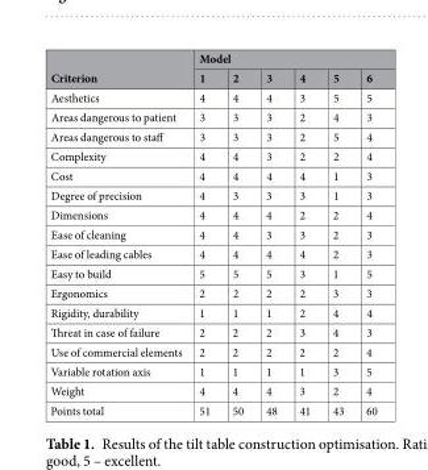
<table><thead><tr><td rowspan="2">Criterion</td><td colspan="6">Model</td></tr><tr><td>1</td><td>2</td><td>3</td><td>4</td><td>5</td><td>6</td></tr></thead><tbody><tr><td>Aesthetics</td><td>4</td><td>4</td><td>4</td><td>3</td><td>5</td><td>5</td></tr><tr><td>Areas dangerous to patient</td><td>3</td><td>3</td><td>3</td><td>2</td><td>4</td><td>3</td></tr><tr><td>Areas dangerous to staff</td><td>3</td><td>3</td><td>3</td><td>2</td><td>5</td><td>4</td></tr><tr><td>Complexity</td><td>4</td><td>4</td><td>3</td><td>2</td><td>2</td><td>4</td></tr><tr><td>Cost</td><td>4</td><td>4</td><td>4</td><td>4</td><td>1</td><td>3</td></tr><tr><td>Degree of precision</td><td>4</td><td>3</td><td>3</td><td>3</td><td>1</td><td>3</td></tr><tr><td>Dimensions</td><td>4</td><td>4</td><td>4</td><td>2</td><td>2</td><td>4</td></tr><tr><td>Ease of cleaning</td><td>4</td><td>4</td><td>3</td><td>3</td><td>2</td><td>3</td></tr><tr><td>Ease of leading cables</td><td>4</td><td>4</td><td>4</td><td>4</td><td>2</td><td>3</td></tr><tr><td>Easy to build</td><td>5</td><td>5</td><td>5</td><td>3</td><td>1</td><td>5</td></tr><tr><td>Ergonomics</td><td>2</td><td>2</td><td>2</td><td>2</td><td>3</td><td>3</td></tr><tr><td>Rigidity, durability</td><td>1</td><td>1</td><td>1</td><td>2</td><td>4</td><td>4</td></tr><tr><td>Threat in case of failure</td><td>2</td><td>2</td><td>2</td><td>3</td><td>4</td><td>3</td></tr><tr><td>Use of commercial elements</td><td>2</td><td>2</td><td>2</td><td>2</td><td>2</td><td>4</td></tr><tr><td>Variable rotation axis</td><td>1</td><td>1</td><td>1</td><td>1</td><td>3</td><td>5</td></tr><tr><td>Weight</td><td>4</td><td>4</td><td>4</td><td>3</td><td>2</td><td>4</td></tr><tr><td>Points total</td><td>51</td><td>50</td><td>48</td><td>41</td><td>43</td><td>60</td></tr></tbody></table>